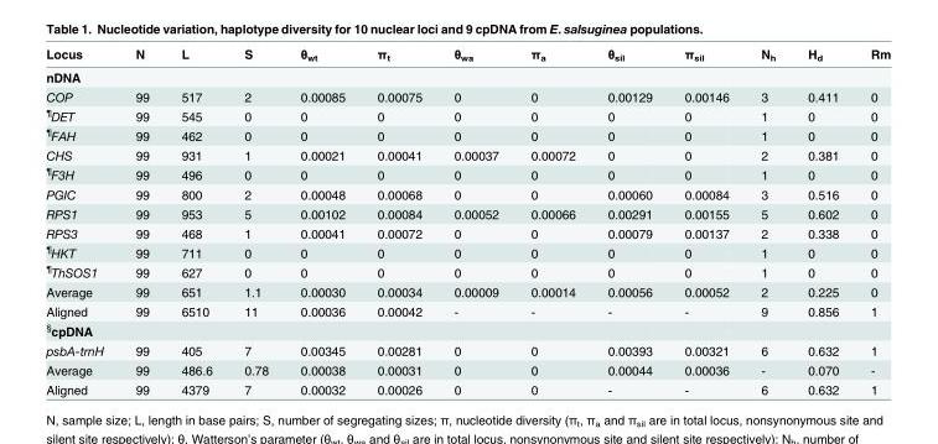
<table><thead><tr><td>Locus</td><td>N</td><td>L</td><td>S</td><td>θ<sub>wt</sub></td><td>π<sub>t</sub></td><td>θ<sub>wa</sub></td><td>π<sub>a</sub></td><td>θ<sub>sil</sub></td><td>π<sub>sil</sub></td><td>N<sub>h</sub></td><td>H<sub>d</sub></td><td>Rm</td></tr></thead><tbody><tr><td colspan="13">nDNA</td></tr><tr><td>COP</td><td>99</td><td>517</td><td>2</td><td>0.00085</td><td>0.00075</td><td>0</td><td>0</td><td>0.00129</td><td>0.00146</td><td>3</td><td>0.411</td><td>0</td></tr><tr><td><sup>¶</sup>DET</td><td>99</td><td>545</td><td>0</td><td>0</td><td>0</td><td>0</td><td>0</td><td>0</td><td>0</td><td>1</td><td>0</td><td>0</td></tr><tr><td><sup>¶</sup>FAH</td><td>99</td><td>462</td><td>0</td><td>0</td><td>0</td><td>0</td><td>0</td><td>0</td><td>0</td><td>1</td><td>0</td><td>0</td></tr><tr><td>CHS</td><td>99</td><td>931</td><td>1</td><td>0.00021</td><td>0.00041</td><td>0.00037</td><td>0.00072</td><td>0</td><td>0</td><td>2</td><td>0.381</td><td>0</td></tr><tr><td><sup>¶</sup>F3H</td><td>99</td><td>496</td><td>0</td><td>0</td><td>0</td><td>0</td><td>0</td><td>0</td><td>0</td><td>1</td><td>0</td><td>0</td></tr><tr><td>PGIC</td><td>99</td><td>800</td><td>2</td><td>0.00048</td><td>0.00068</td><td>0</td><td>0</td><td>0.00060</td><td>0.00084</td><td>3</td><td>0.516</td><td>0</td></tr><tr><td>RPS1</td><td>99</td><td>953</td><td>5</td><td>0.00102</td><td>0.00084</td><td>0.00052</td><td>0.00066</td><td>0.00291</td><td>0.00155</td><td>5</td><td>0.602</td><td>0</td></tr><tr><td>RPS3</td><td>99</td><td>468</td><td>1</td><td>0.00041</td><td>0.00072</td><td>0</td><td>0</td><td>0.00079</td><td>0.00137</td><td>2</td><td>0.338</td><td>0</td></tr><tr><td><sup>¶</sup>HKT</td><td>99</td><td>711</td><td>0</td><td>0</td><td>0</td><td>0</td><td>0</td><td>0</td><td>0</td><td>1</td><td>0</td><td>0</td></tr><tr><td><sup>¶</sup>ThSOS1</td><td>99</td><td>627</td><td>0</td><td>0</td><td>0</td><td>0</td><td>0</td><td>0</td><td>0</td><td>1</td><td>0</td><td>0</td></tr><tr><td>Average</td><td>99</td><td>651</td><td>1.1</td><td>0.00030</td><td>0.00034</td><td>0.00009</td><td>0.00014</td><td>0.00056</td><td>0.00052</td><td>2</td><td>0.225</td><td>0</td></tr><tr><td>Aligned</td><td>99</td><td>6510</td><td>11</td><td>0.00036</td><td>0.00042</td><td>-</td><td>-</td><td>-</td><td>-</td><td>9</td><td>0.856</td><td>1</td></tr><tr><td colspan="13"><sup>§</sup>cpDNA</td></tr><tr><td>psbA-trnH</td><td>99</td><td>405</td><td>7</td><td>0.00345</td><td>0.00281</td><td>0</td><td>0</td><td>0.00393</td><td>0.00321</td><td>6</td><td>0.632</td><td>1</td></tr><tr><td>Average</td><td>99</td><td>486.6</td><td>0.78</td><td>0.00038</td><td>0.00031</td><td>0</td><td>0</td><td>0.00044</td><td>0.00036</td><td>-</td><td>0.070</td><td>-</td></tr><tr><td>Aligned</td><td>99</td><td>4379</td><td>7</td><td>0.00032</td><td>0.00026</td><td>0</td><td>0</td><td>-</td><td>-</td><td>6</td><td>0.632</td><td>1</td></tr></tbody></table>